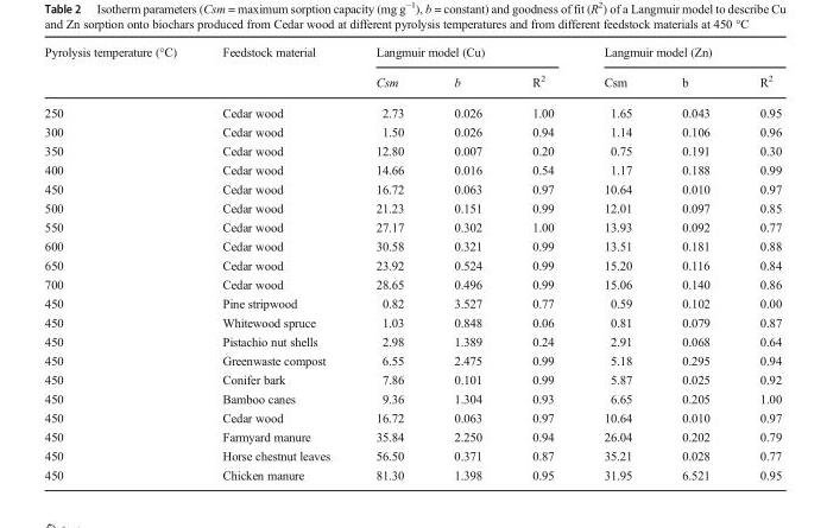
<table><thead><tr><td rowspan="2">Pyrolysis temperature (°C)</td><td rowspan="2">Feedstock material</td><td colspan="3">Langmuir model (Cu)</td><td colspan="3">Langmuir model (Zn)</td></tr><tr><td>Csm</td><td>b</td><td>R<sup>2</sup></td><td>Csm</td><td>b</td><td>R<sup>2</sup></td></tr></thead><tbody><tr><td>250</td><td>Cedar wood</td><td>2.73</td><td>0.026</td><td>1.00</td><td>1.65</td><td>0.043</td><td>0.95</td></tr><tr><td>300</td><td>Cedar wood</td><td>1.50</td><td>0.026</td><td>0.94</td><td>1.14</td><td>0.106</td><td>0.96</td></tr><tr><td>350</td><td>Cedar wood</td><td>12.80</td><td>0.007</td><td>0.20</td><td>0.75</td><td>0.191</td><td>0.30</td></tr><tr><td>400</td><td>Cedar wood</td><td>14.66</td><td>0.016</td><td>0.54</td><td>1.17</td><td>0.188</td><td>0.99</td></tr><tr><td>450</td><td>Cedar wood</td><td>16.72</td><td>0.063</td><td>0.97</td><td>10.64</td><td>0.010</td><td>0.97</td></tr><tr><td>500</td><td>Cedar wood</td><td>21.23</td><td>0.151</td><td>0.99</td><td>12.01</td><td>0.097</td><td>0.85</td></tr><tr><td>550</td><td>Cedar wood</td><td>27.17</td><td>0.302</td><td>1.00</td><td>13.93</td><td>0.092</td><td>0.77</td></tr><tr><td>600</td><td>Cedar wood</td><td>30.58</td><td>0.321</td><td>0.99</td><td>13.51</td><td>0.181</td><td>0.88</td></tr><tr><td>650</td><td>Cedar wood</td><td>23.92</td><td>0.524</td><td>0.99</td><td>15.20</td><td>0.116</td><td>0.84</td></tr><tr><td>700</td><td>Cedar wood</td><td>28.65</td><td>0.496</td><td>0.99</td><td>15.06</td><td>0.140</td><td>0.86</td></tr><tr><td>450</td><td>Pine stripwood</td><td>0.82</td><td>3.527</td><td>0.77</td><td>0.59</td><td>0.102</td><td>0.00</td></tr><tr><td>450</td><td>Whitewood spruce</td><td>1.03</td><td>0.848</td><td>0.06</td><td>0.81</td><td>0.079</td><td>0.87</td></tr><tr><td>450</td><td>Pistachio nut shells</td><td>2.98</td><td>1.389</td><td>0.24</td><td>2.91</td><td>0.068</td><td>0.64</td></tr><tr><td>450</td><td>Greenwaste compost</td><td>6.55</td><td>2.475</td><td>0.99</td><td>5.18</td><td>0.295</td><td>0.94</td></tr><tr><td>450</td><td>Conifer bark</td><td>7.86</td><td>0.101</td><td>0.99</td><td>5.87</td><td>0.025</td><td>0.92</td></tr><tr><td>450</td><td>Bamboo canes</td><td>9.36</td><td>1.304</td><td>0.93</td><td>6.65</td><td>0.205</td><td>1.00</td></tr><tr><td>450</td><td>Cedar wood</td><td>16.72</td><td>0.063</td><td>0.97</td><td>10.64</td><td>0.010</td><td>0.97</td></tr><tr><td>450</td><td>Farmyard manure</td><td>35.84</td><td>2.250</td><td>0.94</td><td>26.04</td><td>0.202</td><td>0.79</td></tr><tr><td>450</td><td>Horse chestnut leaves</td><td>56.50</td><td>0.371</td><td>0.87</td><td>35.21</td><td>0.028</td><td>0.77</td></tr><tr><td>450</td><td>Chicken manure</td><td>81.30</td><td>1.398</td><td>0.95</td><td>31.95</td><td>6.521</td><td>0.95</td></tr></tbody></table>